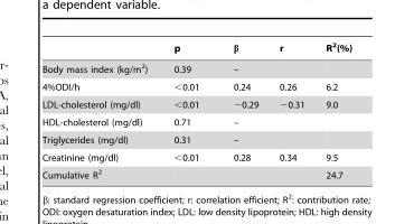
<table><thead><tr><td></td><td>p</td><td>β</td><td>r</td><td>R<sup>2</sup>(%)</td></tr></thead><tbody><tr><td>Body mass index (kg/m<sup>2</sup>)</td><td>0.39</td><td>–</td><td></td><td></td></tr><tr><td>4%ODI/h</td><td>&lt;0.01</td><td>0.24</td><td>0.26</td><td>6.2</td></tr><tr><td>LDL-cholesterol (mg/dl)</td><td>&lt;0.01</td><td>−0.29</td><td>−0.31</td><td>9.0</td></tr><tr><td>HDL-cholesterol (mg/dl)</td><td>0.71</td><td>–</td><td></td><td></td></tr><tr><td>Triglycerides (mg/dl)</td><td>0.31</td><td>–</td><td></td><td></td></tr><tr><td>Creatinine (mg/dl)</td><td>&lt;0.01</td><td>0.28</td><td>0.34</td><td>9.5</td></tr><tr><td>Cumulative R<sup>2</sup></td><td></td><td></td><td></td><td>24.7</td></tr></tbody></table>